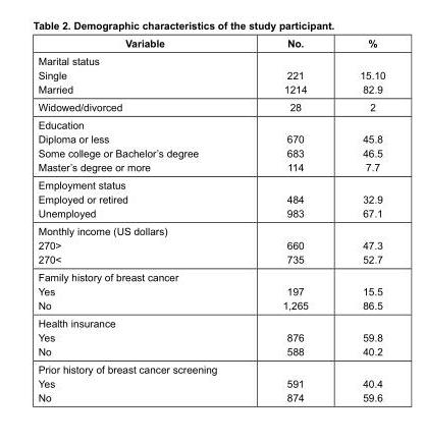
<table><thead><tr><td>Variable</td><td>No.</td><td>%</td></tr></thead><tbody><tr><td>Marital status Single Married</td><td>221 1214</td><td>15.10 82.9</td></tr><tr><td>Widowed/divorced</td><td>28</td><td>2</td></tr><tr><td>Education Diploma or less Some college or Bachelor’s degree Master’s degree or more</td><td>670 683 114</td><td>45.8 46.5 7.7</td></tr><tr><td>Employment status Employed or retired Unemployed</td><td>484 983</td><td>32.9 67.1</td></tr><tr><td>Monthly income (US dollars) 270&gt; 270&lt;</td><td>660 735</td><td>47.3 52.7</td></tr><tr><td>Family history of breast cancer Yes No</td><td>197 1,265</td><td>15.5 86.5</td></tr><tr><td>Health insurance Yes No</td><td>876 588</td><td>59.8 40.2</td></tr><tr><td>Prior history of breast cancer screening Yes No</td><td>591 874</td><td>40.4 59.6</td></tr></tbody></table>